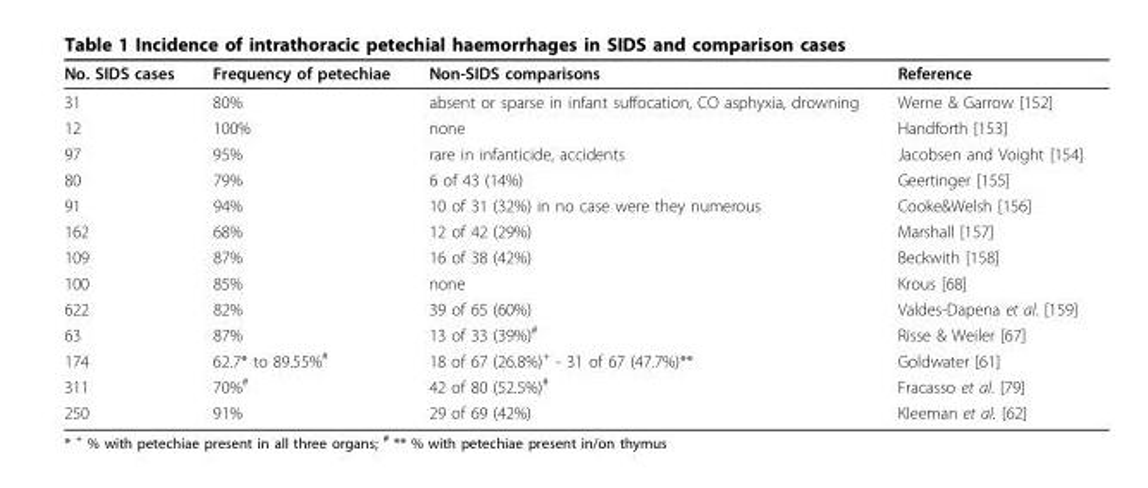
<table><thead><tr><td>No. SIDS cases</td><td>Frequency of petechiae</td><td>Non-SIDS comparisons</td><td>Reference</td></tr></thead><tbody><tr><td>31</td><td>80%</td><td>absent or sparse in infant suffocation, CO asphyxia, drowning</td><td>Werne &amp; Garrow [152]</td></tr><tr><td>12</td><td>100%</td><td>none</td><td>Handforth [153]</td></tr><tr><td>97</td><td>95%</td><td>rare in infanticide, accidents</td><td>Jacobsen and Voight [154]</td></tr><tr><td>80</td><td>79%</td><td>6 of 43 (14%)</td><td>Geertinger [155]</td></tr><tr><td>91</td><td>94%</td><td>10 of 31 (32%) in no case were they numerous</td><td>Cooke&amp;Welsh [156]</td></tr><tr><td>162</td><td>68%</td><td>12 of 42 (29%)</td><td>Marshall [157]</td></tr><tr><td>109</td><td>87%</td><td>16 of 38 (42%)</td><td>Beckwith [158]</td></tr><tr><td>100</td><td>85%</td><td>none</td><td>Krous [68]</td></tr><tr><td>622</td><td>82%</td><td>39 of 65 (60%)</td><td>Valdes-Dapena et al. [159]</td></tr><tr><td>63</td><td>87%</td><td>13 of 33 (39%)<sup>#</sup></td><td>Risse &amp; Weiler [67]</td></tr><tr><td>174</td><td>62.7* to 89.55%<sup>#</sup></td><td>18 of 67 (26.8%)<sup>+</sup> - 31 of 67 (47.7%)**</td><td>Goldwater [61]</td></tr><tr><td>311</td><td>70%<sup>#</sup></td><td>42 of 80 (52.5%)<sup>#</sup></td><td>Fracasso et al. [79]</td></tr><tr><td>250</td><td>91%</td><td>29 of 69 (42%)</td><td>Kleeman et al. [62]</td></tr></tbody></table>